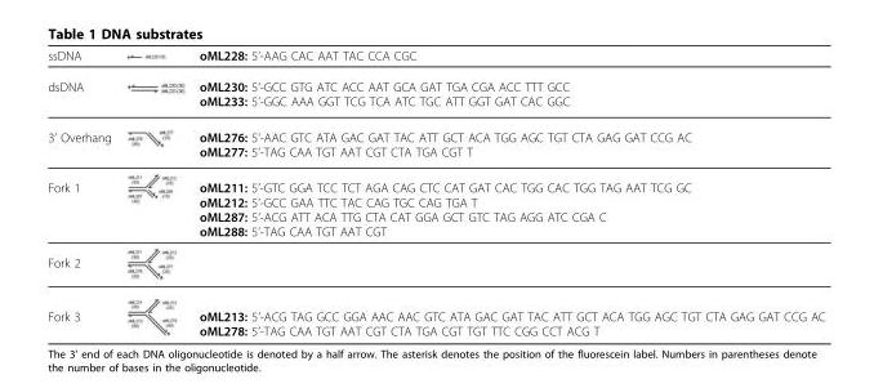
<table><thead><tr><td>ssDNA</td><td>oML228: 5’-AAG CAC AAT TAC CCA CGC</td></tr></thead><tbody><tr><td>dsDNA</td><td>oML230: 5’-GCC GTG ATC ACC AAT GCA GAT TGA CGA ACC TTT GCC oML233: 5’-GGC AAA GGT TCG TCA ATC TGC ATT GGT GAT CAC GGC</td></tr><tr><td>3’ Overhang</td><td>oML276: 5’-AAC GTC ATA GAC GAT TAC ATT GCT ACA TGG AGC TGT CTA GAG GAT CCG AC oML277: 5’-TAG CAA TGT AAT CGT CTA TGA CGT T</td></tr><tr><td>Fork 1</td><td>oML211: 5’-GTC GGA TCC TCT AGA CAG CTC CAT GAT CAC TGG CAC TGG TAG AAT TCG GC oML212: 5’-GCC GAA TTC TAC CAG TGC CAG TGA T oML287: 5’-ACG ATT ACA TTG CTA CAT GGA GCT GTC TAG AGG ATC CGA C oML288: 5’-TAG CAA TGT AAT CGT</td></tr><tr><td colspan="2">Fork 2</td></tr><tr><td>Fork 3</td><td>oML213: 5’-ACG TAG GCC GGA AAC AAC GTC ATA GAC GAT TAC ATT GCT ACA TGG AGC TGT CTA GAG GAT CCG AC oML278: 5’-TAG CAA TGT AAT CGT CTA TGA CGT TGT TTC CGG CCT ACG T</td></tr></tbody></table>